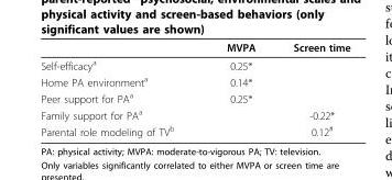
<table><thead><tr><td></td><td>MVPA</td><td>Screen time</td></tr></thead><tbody><tr><td>Self-efficacy<sup>a</sup></td><td>0.25*</td><td></td></tr><tr><td>Home PA environment<sup>a</sup></td><td>0.14*</td><td></td></tr><tr><td>Peer support for PA<sup>a</sup></td><td>0.25*</td><td></td></tr><tr><td>Family support for PA<sup>a</sup></td><td></td><td>-0.22*</td></tr><tr><td>Parental role modeling of TV<sup>b</sup></td><td></td><td>0.12<sup>#</sup></td></tr></tbody></table>